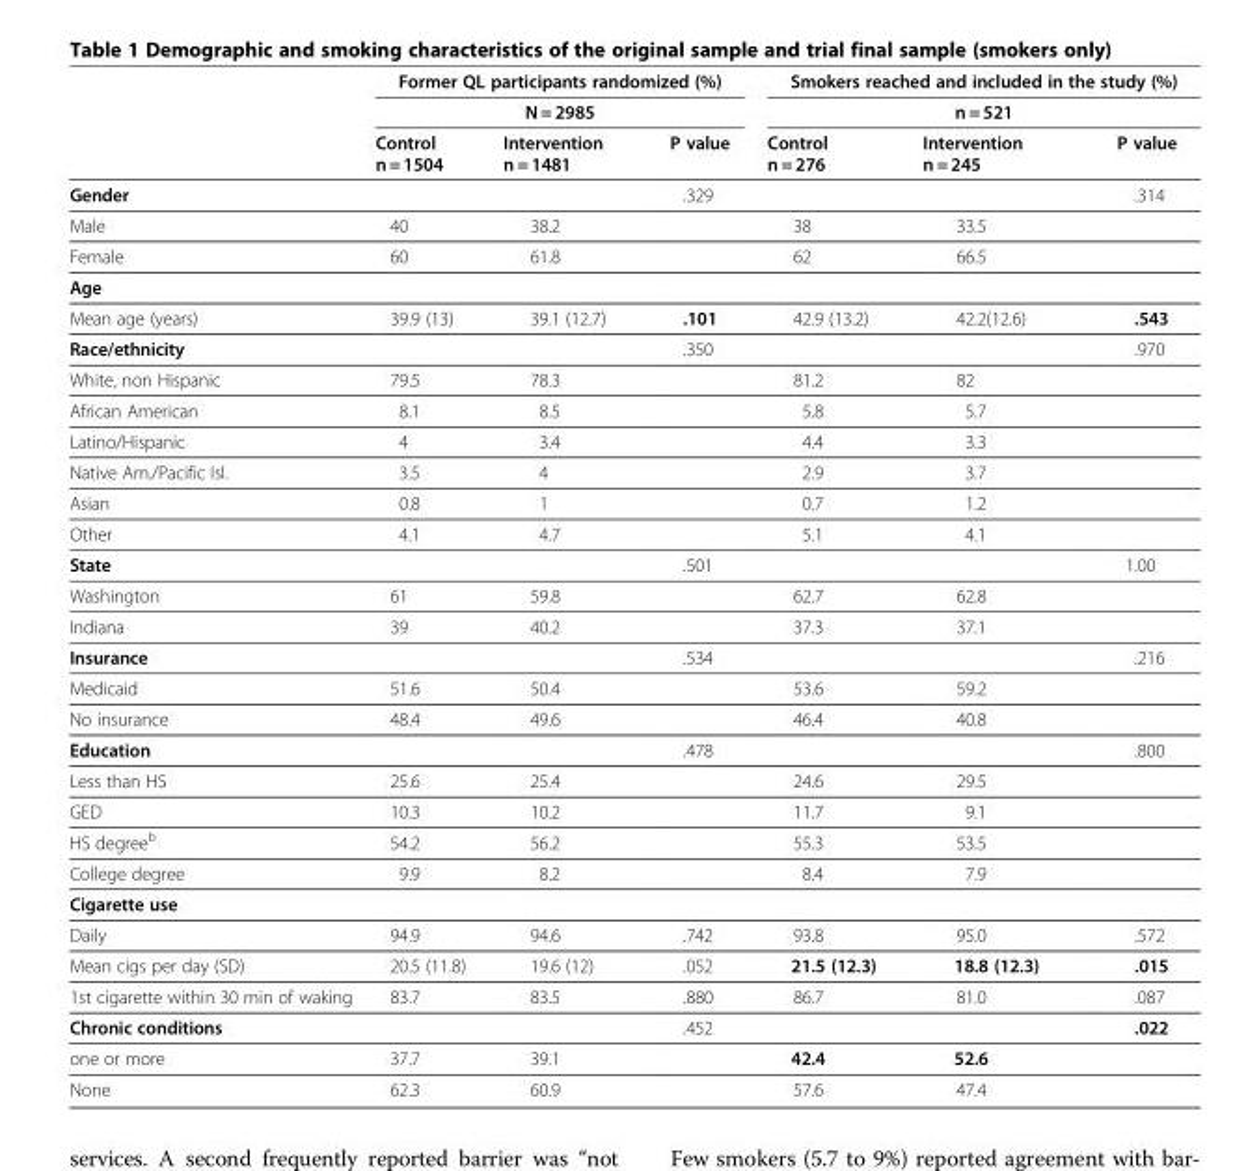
<table><thead><tr><td rowspan="3"></td><td rowspan="2" colspan="3">Former QL participants randomized (%) N = 2985</td><td rowspan="2" colspan="3">Smokers reached and included in the study (%) n = 521</td></tr><tr></tr><tr><td>Control n = 1504</td><td>Intervention n = 1481</td><td>P value</td><td>Control n = 276</td><td>Intervention n = 245</td><td>P value</td></tr></thead><tbody><tr><td>Gender</td><td></td><td></td><td>.329</td><td></td><td></td><td>.314</td></tr><tr><td>Male</td><td>40</td><td>38.2</td><td></td><td>38</td><td>33.5</td><td></td></tr><tr><td>Female</td><td>60</td><td>61.8</td><td></td><td>62</td><td>66.5</td><td></td></tr><tr><td colspan="7">Age</td></tr><tr><td>Mean age (years)</td><td>39.9 (13)</td><td>39.1 (12.7)</td><td>.101</td><td>42.9 (13.2)</td><td>42.2(12.6)</td><td>.543</td></tr><tr><td>Race/ethnicity</td><td></td><td></td><td>.350</td><td></td><td></td><td>.970</td></tr><tr><td>White, non Hispanic</td><td>79.5</td><td>78.3</td><td></td><td>81.2</td><td>82</td><td></td></tr><tr><td>African American</td><td>8.1</td><td>8.5</td><td></td><td>5.8</td><td>5.7</td><td></td></tr><tr><td>Latino/Hispanic</td><td>4</td><td>3.4</td><td></td><td>4.4</td><td>3.3</td><td></td></tr><tr><td>Native Am./Pacific Isl.</td><td>3.5</td><td>4</td><td></td><td>2.9</td><td>3.7</td><td></td></tr><tr><td>Asian</td><td>0.8</td><td>1</td><td></td><td>0.7</td><td>1.2</td><td></td></tr><tr><td>Other</td><td>4.1</td><td>4.7</td><td></td><td>5.1</td><td>4.1</td><td></td></tr><tr><td>State</td><td></td><td></td><td>.501</td><td></td><td></td><td>1.00</td></tr><tr><td>Washington</td><td>61</td><td>59.8</td><td></td><td>62.7</td><td>62.8</td><td></td></tr><tr><td>Indiana</td><td>39</td><td>40.2</td><td></td><td>37.3</td><td>37.1</td><td></td></tr><tr><td>Insurance</td><td></td><td></td><td>.534</td><td></td><td></td><td>.216</td></tr><tr><td>Medicaid</td><td>51.6</td><td>50.4</td><td></td><td>53.6</td><td>59.2</td><td></td></tr><tr><td>No insurance</td><td>48.4</td><td>49.6</td><td></td><td>46.4</td><td>40.8</td><td></td></tr><tr><td>Education</td><td></td><td></td><td>.478</td><td></td><td></td><td>.800</td></tr><tr><td>Less than HS</td><td>25.6</td><td>25.4</td><td></td><td>24.6</td><td>29.5</td><td></td></tr><tr><td>GED</td><td>10.3</td><td>10.2</td><td></td><td>11.7</td><td>9.1</td><td></td></tr><tr><td>HS degree<sup>b</sup></td><td>54.2</td><td>56.2</td><td></td><td>55.3</td><td>53.5</td><td></td></tr><tr><td>College degree</td><td>9.9</td><td>8.2</td><td></td><td>8.4</td><td>7.9</td><td></td></tr><tr><td colspan="7">Cigarette use</td></tr><tr><td>Daily</td><td>94.9</td><td>94.6</td><td>.742</td><td>93.8</td><td>95.0</td><td>.572</td></tr><tr><td>Mean cigs per day (SD)</td><td>20.5 (11.8)</td><td>19.6 (12)</td><td>.052</td><td>21.5 (12.3)</td><td>18.8 (12.3)</td><td>.015</td></tr><tr><td>1st cigarette within 30 min of waking</td><td>83.7</td><td>83.5</td><td>.880</td><td>86.7</td><td>81.0</td><td>.087</td></tr><tr><td>Chronic conditions</td><td></td><td></td><td>.452</td><td></td><td></td><td>.022</td></tr><tr><td>one or more</td><td>37.7</td><td>39.1</td><td></td><td>42.4</td><td>52.6</td><td></td></tr><tr><td>None</td><td>62.3</td><td>60.9</td><td></td><td>57.6</td><td>47.4</td><td></td></tr></tbody></table>